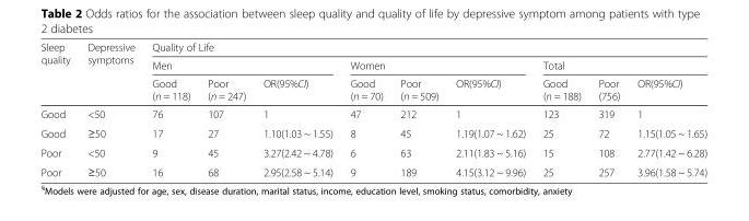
<table><thead><tr><td rowspan="3">Sleep quality</td><td rowspan="3">Depressive symptoms</td><td colspan="9">Quality of Life</td></tr><tr><td colspan="3">Men</td><td colspan="3">Women</td><td colspan="3">Total</td></tr><tr><td>Good (n = 118)</td><td>Poor (n = 247)</td><td>OR(95%CI)</td><td>Good (n = 70)</td><td>Poor (n = 509)</td><td>OR(95%CI)</td><td>Good (n = 188)</td><td>Poor (756)</td><td>OR(95%CI)</td></tr></thead><tbody><tr><td>Good</td><td>&lt;50</td><td>76</td><td>107</td><td>1</td><td>47</td><td>212</td><td>1</td><td>123</td><td>319</td><td>1</td></tr><tr><td>Good</td><td>≥50</td><td>17</td><td>27</td><td>1.10(1.03 ~ 1.55)</td><td>8</td><td>45</td><td>1.19(1.07 ~ 1.62)</td><td>25</td><td>72</td><td>1.15(1.05 ~ 1.65)</td></tr><tr><td>Poor</td><td>&lt;50</td><td>9</td><td>45</td><td>3.27(2.42 ~ 4.78)</td><td>6</td><td>63</td><td>2.11(1.83 ~ 5.16)</td><td>15</td><td>108</td><td>2.77(1.42 ~ 6.28)</td></tr><tr><td>Poor</td><td>≥50</td><td>16</td><td>68</td><td>2.95(2.58 ~ 5.14)</td><td>9</td><td>189</td><td>4.15(3.12 ~ 9.96)</td><td>25</td><td>257</td><td>3.96(1.58 ~ 5.74)</td></tr></tbody></table>